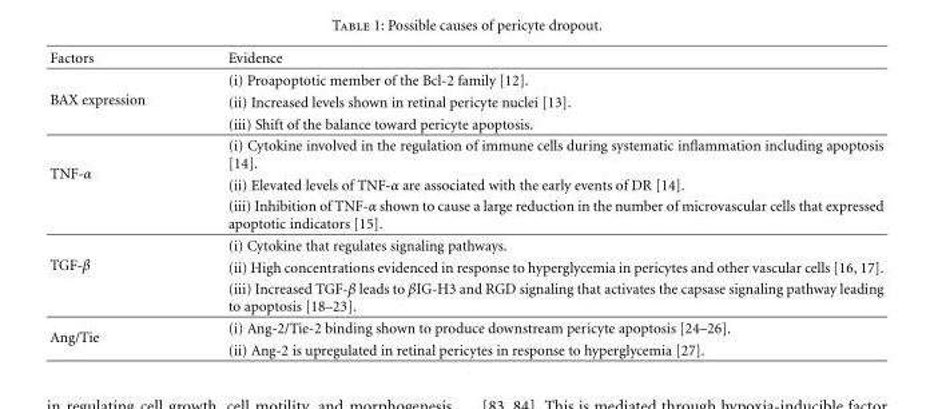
<table><thead><tr><td>Factors</td><td>Evidence</td></tr></thead><tbody><tr><td rowspan="3">BAX expression</td><td>(i) Proapoptotic member of the Bcl-2 family [12].</td></tr><tr><td>(ii) Increased levels shown in retinal pericyte nuclei [13].</td></tr><tr><td>(iii) Shift of the balance toward pericyte apoptosis.</td></tr><tr><td rowspan="3">TNF-α</td><td>(i) Cytokine involved in the regulation of immune cells during systematic inflammation including apoptosis [14].</td></tr><tr><td>(ii) Elevated levels of TNF-α are associated with the early events of DR [14].</td></tr><tr><td>(iii) Inhibition of TNF-α shown to cause a large reduction in the number of microvascular cells that expressed apoptotic indicators [15].</td></tr><tr><td rowspan="3">TGF-β</td><td>(i) Cytokine that regulates signaling pathways.</td></tr><tr><td>(ii) High concentrations evidenced in response to hyperglycemia in pericytes and other vascular cells [16, 17].</td></tr><tr><td>(iii) Increased TGF-β leads to βIG-H3 and RGD signaling that activates the capsase signaling pathway leading to apoptosis [18–23].</td></tr><tr><td rowspan="2">Ang/Tie</td><td>(i) Ang-2/Tie-2 binding shown to produce downstream pericyte apoptosis [24–26].</td></tr><tr><td>(ii) Ang-2 is upregulated in retinal pericytes in response to hyperglycemia [27].</td></tr></tbody></table>